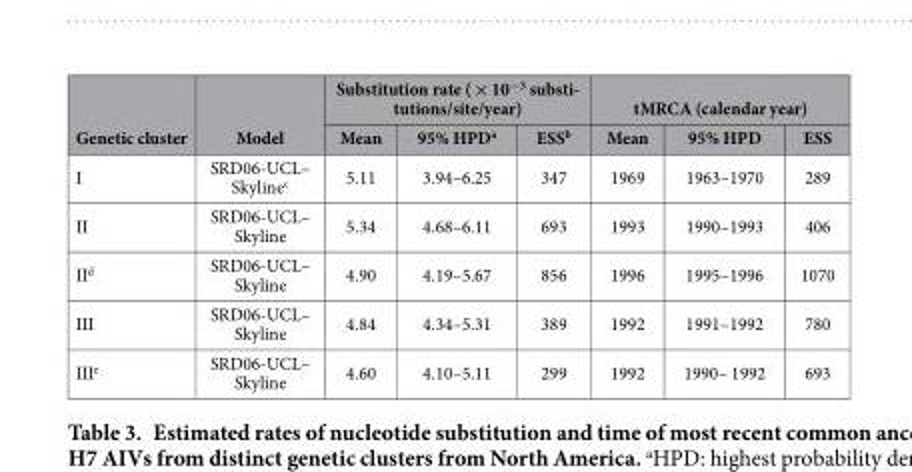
<table><thead><tr><td rowspan="2">Genetic cluster</td><td rowspan="2">Model</td><td colspan="3">Substitution rate ( × 10−3 substi- tutions/site/year)</td><td colspan="3">tMRCA (calendar year)</td></tr><tr><td>Mean</td><td>95% HPD<sup>a</sup></td><td>ESS<sup>b</sup></td><td>Mean</td><td>95% HPD</td><td>ESS</td></tr></thead><tbody><tr><td>I</td><td>SRD06-UCL– Skyline<sup>c</sup></td><td>5.11</td><td>3.94–6.25</td><td>347</td><td>1969</td><td>1963–1970</td><td>289</td></tr><tr><td>II</td><td>SRD06-UCL– Skyline</td><td>5.34</td><td>4.68–6.11</td><td>693</td><td>1993</td><td>1990–1993</td><td>406</td></tr><tr><td>II<sup>d</sup></td><td>SRD06-UCL– Skyline</td><td>4.90</td><td>4.19–5.67</td><td>856</td><td>1996</td><td>1995–1996</td><td>1070</td></tr><tr><td>III</td><td>SRD06-UCL– Skyline</td><td>4.84</td><td>4.34–5.31</td><td>389</td><td>1992</td><td>1991–1992</td><td>780</td></tr><tr><td>III<sup>e</sup></td><td>SRD06-UCL– Skyline</td><td>4.60</td><td>4.10–5.11</td><td>299</td><td>1992</td><td>1990– 1992</td><td>693</td></tr></tbody></table>